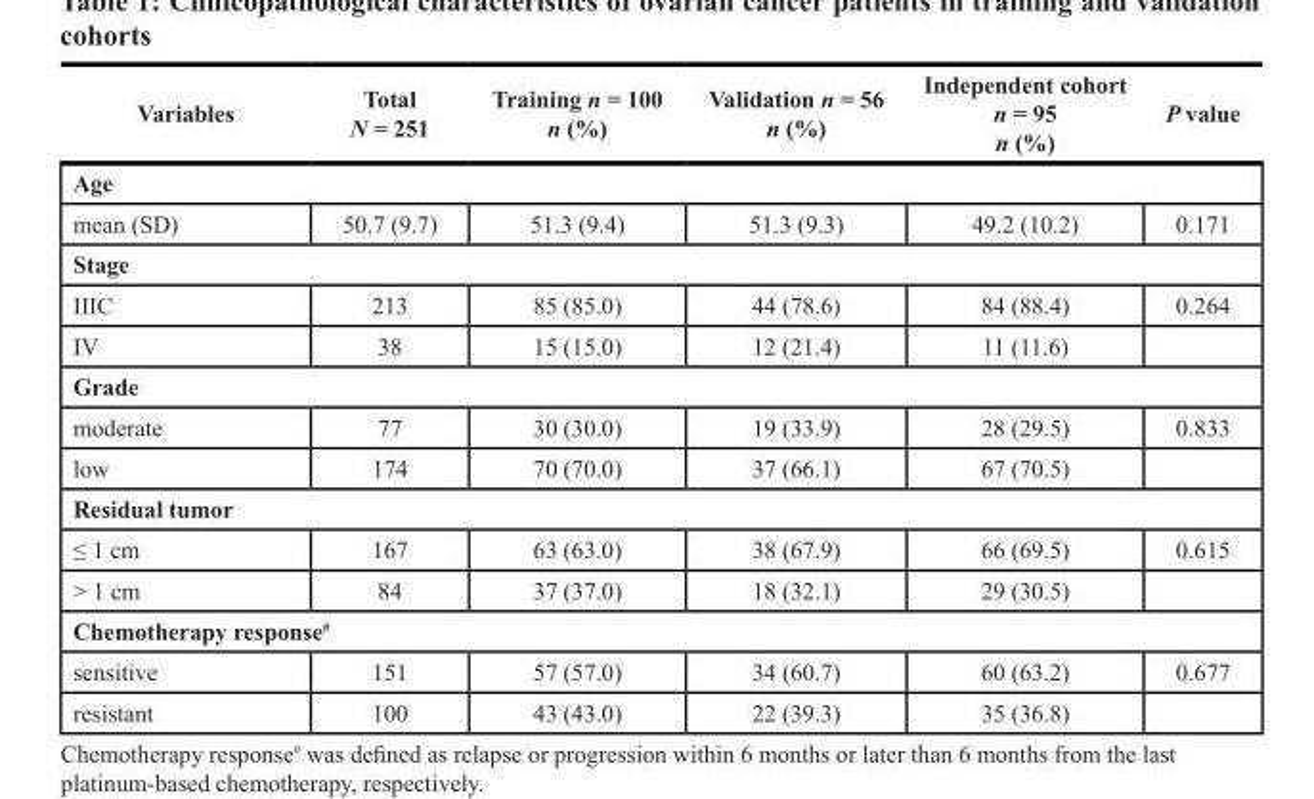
<table><thead><tr><td>Variables</td><td>Total N = 251</td><td>Training n = 100 n (%)</td><td>Validation n = 56 n (%)</td><td>Independent cohort n = 95 n (%)</td><td>P value</td></tr></thead><tbody><tr><td colspan="6">Age</td></tr><tr><td>mean (SD)</td><td>50.7 (9.7)</td><td>51.3 (9.4)</td><td>51.3 (9.3)</td><td>49.2 (10.2)</td><td>0.171</td></tr><tr><td colspan="6">Stage</td></tr><tr><td>IIIC</td><td>213</td><td>85 (85.0)</td><td>44 (78.6)</td><td>84 (88.4)</td><td>0.264</td></tr><tr><td>IV</td><td>38</td><td>15 (15.0)</td><td>12 (21.4)</td><td>11 (11.6)</td><td></td></tr><tr><td colspan="6">Grade</td></tr><tr><td>moderate</td><td>77</td><td>30 (30.0)</td><td>19 (33.9)</td><td>28 (29.5)</td><td>0.833</td></tr><tr><td>low</td><td>174</td><td>70 (70.0)</td><td>37 (66.1)</td><td>67 (70.5)</td><td></td></tr><tr><td colspan="6">Residual tumor</td></tr><tr><td>≤ 1 cm</td><td>167</td><td>63 (63.0)</td><td>38 (67.9)</td><td>66 (69.5)</td><td>0.615</td></tr><tr><td>&gt; 1 cm</td><td>84</td><td>37 (37.0)</td><td>18 (32.1)</td><td>29 (30.5)</td><td></td></tr><tr><td colspan="6">Chemotherapy response<sup>#</sup></td></tr><tr><td>sensitive</td><td>151</td><td>57 (57.0)</td><td>34 (60.7)</td><td>60 (63.2)</td><td>0.677</td></tr><tr><td>resistant</td><td>100</td><td>43 (43.0)</td><td>22 (39.3)</td><td>35 (36.8)</td><td></td></tr></tbody></table>